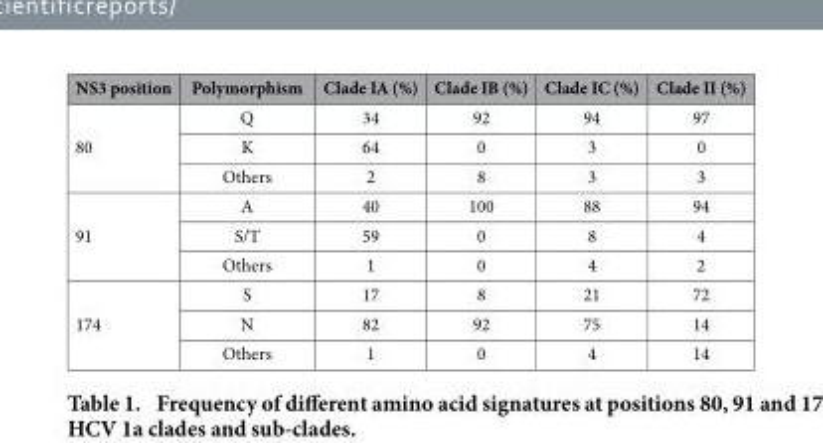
<table><thead><tr><td>NS3 position</td><td>Polymorphism</td><td>Clade IA (%)</td><td>Clade IB (%)</td><td>Clade IC (%)</td><td>Clade II (%)</td></tr></thead><tbody><tr><td rowspan="3">80</td><td>Q</td><td>34</td><td>92</td><td>94</td><td>97</td></tr><tr><td>K</td><td>64</td><td>0</td><td>3</td><td>0</td></tr><tr><td>Others</td><td>2</td><td>8</td><td>3</td><td>3</td></tr><tr><td rowspan="3">91</td><td>A</td><td>40</td><td>100</td><td>88</td><td>94</td></tr><tr><td>S/T</td><td>59</td><td>0</td><td>8</td><td>4</td></tr><tr><td>Others</td><td>1</td><td>0</td><td>4</td><td>2</td></tr><tr><td rowspan="3">174</td><td>S</td><td>17</td><td>8</td><td>21</td><td>72</td></tr><tr><td>N</td><td>82</td><td>92</td><td>75</td><td>14</td></tr><tr><td>Others</td><td>1</td><td>0</td><td>4</td><td>14</td></tr></tbody></table>